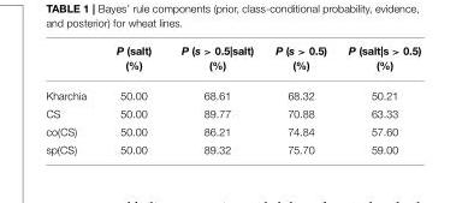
<table><thead><tr><td></td><td>P (salt) (%)</td><td>P (s &gt; 0.5|salt) (%)</td><td>P (s &gt; 0.5) (%)</td><td>P (salt|s &gt; 0.5) (%)</td></tr></thead><tbody><tr><td>Kharchia</td><td>50.00</td><td>68.61</td><td>68.32</td><td>50.21</td></tr><tr><td>CS</td><td>50.00</td><td>89.77</td><td>70.88</td><td>63.33</td></tr><tr><td>co(CS)</td><td>50.00</td><td>86.21</td><td>74.84</td><td>57.60</td></tr><tr><td>sp(CS)</td><td>50.00</td><td>89.32</td><td>75.70</td><td>59.00</td></tr></tbody></table>